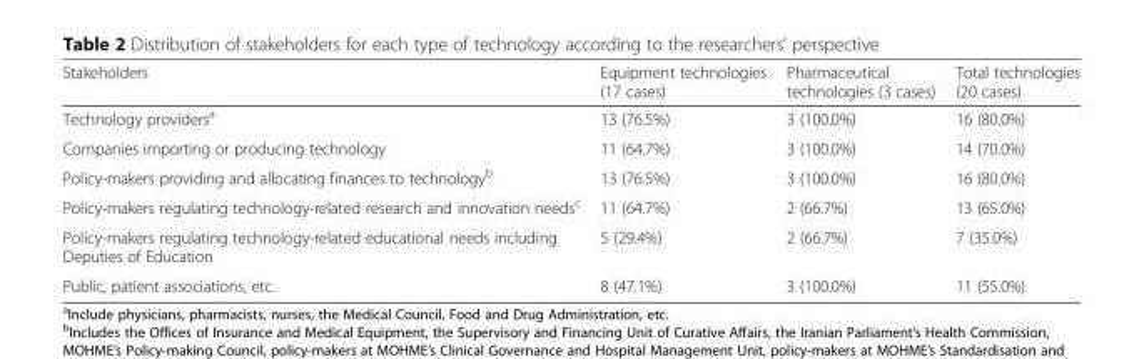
<table><thead><tr><td>Stakeholders</td><td>Equipment technologies (17 cases)</td><td>Pharmaceutical technologies (3 cases)</td><td>Total technologies (20 cases)</td></tr></thead><tbody><tr><td>Technology providers<sup>a</sup></td><td>13 (76.5%)</td><td>3 (100.0%)</td><td>16 (80.0%)</td></tr><tr><td>Companies importing or producing technology</td><td>11 (64.7%)</td><td>3 (100.0%)</td><td>14 (70.0%)</td></tr><tr><td>Policy-makers providing and allocating finances to technology<sup>b</sup></td><td>13 (76.5%)</td><td>3 (100.0%)</td><td>16 (80.0%)</td></tr><tr><td>Policy-makers regulating technology-related research and innovation needs<sup>c</sup></td><td>11 (64.7%)</td><td>2 (66.7%)</td><td>13 (65.0%)</td></tr><tr><td>Policy-makers regulating technology-related educational needs including Deputies of Education</td><td>5 (29.4%)</td><td>2 (66.7%)</td><td>7 (35.0%)</td></tr><tr><td>Public, patient associations, etc.</td><td>8 (47.1%)</td><td>3 (100.0%)</td><td>11 (55.0%)</td></tr></tbody></table>